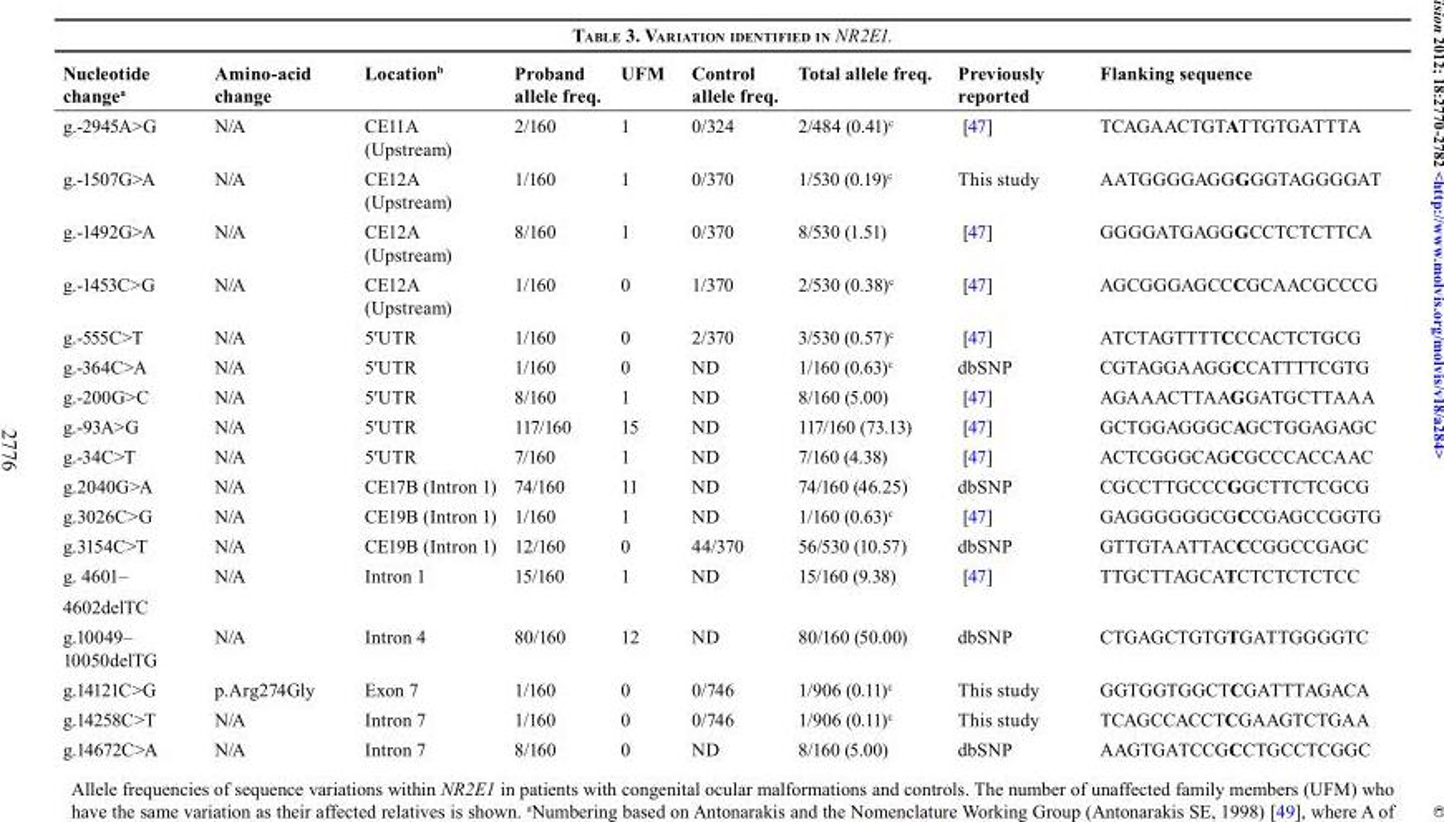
<table><thead><tr><td>Nucleotide change<sup>a</sup></td><td>Amino-acid change</td><td>Location<sup>b</sup></td><td>Proband allele freq.</td><td>UFM</td><td>Control allele freq.</td><td>Total allele freq.</td><td>Previously reported</td><td>Flanking sequence</td></tr></thead><tbody><tr><td>g.-2945A&gt;G</td><td>N/A</td><td>CE11A (Upstream)</td><td>2/160</td><td>1</td><td>0/324</td><td>2/484 (0.41)<sup>c</sup></td><td>[47]</td><td>TCAGAACTGTATTGTGATTTA</td></tr><tr><td>g.-1507G&gt;A</td><td>N/A</td><td>CE12A (Upstream)</td><td>1/160</td><td>1</td><td>0/370</td><td>1/530 (0.19)<sup>c</sup></td><td>This study</td><td>AATGGGGAGGGGGTAGGGGAT</td></tr><tr><td>g.-1492G&gt;A</td><td>N/A</td><td>CE12A (Upstream)</td><td>8/160</td><td>1</td><td>0/370</td><td>8/530 (1.51)</td><td>[47]</td><td>GGGGATGAGGGCCTCTCTTCA</td></tr><tr><td>g.-1453C&gt;G</td><td>N/A</td><td>CE12A (Upstream)</td><td>1/160</td><td>0</td><td>1/370</td><td>2/530 (0.38)<sup>c</sup></td><td>[47]</td><td>AGCGGGAGCCCGCAACGCCCG</td></tr><tr><td>g.-555C&gt;T</td><td>N/A</td><td>5′UTR</td><td>1/160</td><td>0</td><td>2/370</td><td>3/530 (0.57)<sup>c</sup></td><td>[47]</td><td>ATCTAGTTTTCCCACTCTGCG</td></tr><tr><td>g.-364C&gt;A</td><td>N/A</td><td>5′UTR</td><td>1/160</td><td>0</td><td>ND</td><td>1/160 (0.63)<sup>c</sup></td><td>dbSNP</td><td>CGTAGGAAGGCCATTTTCGTG</td></tr><tr><td>g.-200G&gt;C</td><td>N/A</td><td>5′UTR</td><td>8/160</td><td>1</td><td>ND</td><td>8/160 (5.00)</td><td>[47]</td><td>AGAAACTTAAGGATGCTTAAA</td></tr><tr><td>g.-93A&gt;G</td><td>N/A</td><td>5′UTR</td><td>117/160</td><td>15</td><td>ND</td><td>117/160 (73.13)</td><td>[47]</td><td>GCTGGAGGGCAGCTGGAGAGC</td></tr><tr><td>g.-34C&gt;T</td><td>N/A</td><td>5′UTR</td><td>7/160</td><td>1</td><td>ND</td><td>7/160 (4.38)</td><td>[47]</td><td>ACTCGGGCAGCGCCCACCAAC</td></tr><tr><td>g.2040G&gt;A</td><td>N/A</td><td>CE17B (Intron 1)</td><td>74/160</td><td>11</td><td>ND</td><td>74/160 (46.25)</td><td>dbSNP</td><td>CGCCTTGCCCGGCTTCTCGCG</td></tr><tr><td>g.3026C&gt;G</td><td>N/A</td><td>CE19B (Intron 1)</td><td>1/160</td><td>1</td><td>ND</td><td>1/160 (0.63)<sup>c</sup></td><td>[47]</td><td>GAGGGGGGCGCCGAGCCGGTG</td></tr><tr><td>g.3154C&gt;T</td><td>N/A</td><td>CE19B (Intron 1)</td><td>12/160</td><td>0</td><td>44/370</td><td>56/530 (10.57)</td><td>dbSNP</td><td>GTTGTAATTACCCGGCCGAGC</td></tr><tr><td>g. 4601– 4602delTC</td><td>N/A</td><td>Intron 1</td><td>15/160</td><td>1</td><td>ND</td><td>15/160 (9.38)</td><td>[47]</td><td>TTGCTTAGCATCTCTCTCTCC</td></tr><tr><td>g.10049– 10050delTG</td><td>N/A</td><td>Intron 4</td><td>80/160</td><td>12</td><td>ND</td><td>80/160 (50.00)</td><td>dbSNP</td><td>CTGAGCTGTGTGATTGGGGTC</td></tr><tr><td>g.14121C&gt;G</td><td>p.Arg274Gly</td><td>Exon 7</td><td>1/160</td><td>0</td><td>0/746</td><td>1/906 (0.11)<sup>c</sup></td><td>This study</td><td>GGTGGTGGCTCGATTTAGACA</td></tr><tr><td>g.14258C&gt;T</td><td>N/A</td><td>Intron 7</td><td>1/160</td><td>0</td><td>0/746</td><td>1/906 (0.11)<sup>c</sup></td><td>This study</td><td>TCAGCCACCTCGAAGTCTGAA</td></tr><tr><td>g.14672C&gt;A</td><td>N/A</td><td>Intron 7</td><td>8/160</td><td>0</td><td>ND</td><td>8/160 (5.00)</td><td>dbSNP</td><td>AAGTGATCCGCCTGCCTCGGC</td></tr></tbody></table>